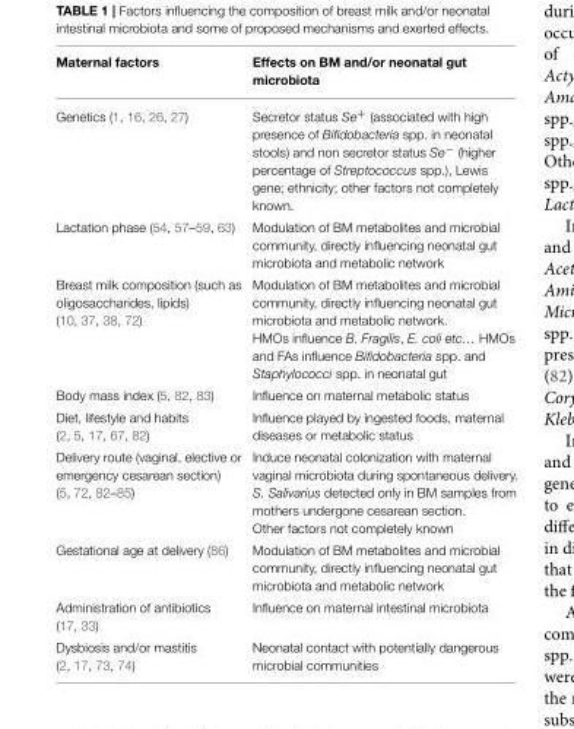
<table><thead><tr><td>Maternal factors</td><td>Effects on BM and/or neonatal gut microbiota</td></tr></thead><tbody><tr><td>Genetics (1, 16, 26, 27)</td><td>Secretor status Se<sup>+</sup> (associated with high presence of Bifidobacteria spp. in neonatal stools) and non secretor status Se<sup>−</sup> (higher percentage of Streptococcus spp.), Lewis gene; ethnicity; other factors not completely known.</td></tr><tr><td>Lactation phase (54, 57–59, 63)</td><td>Modulation of BM metabolites and microbial community, directly influencing neonatal gut microbiota and metabolic network</td></tr><tr><td>Breast milk composition (such as oligosaccharides, lipids) (10, 37, 38, 72)</td><td>Modulation of BM metabolites and microbial community, directly influencing neonatal gut microbiota and metabolic network. HMOs influence B. Fragilis, E. coli etc… HMOs and FAs influence Bifidobacteria spp. and Staphylococci spp. in neonatal gut</td></tr><tr><td>Body mass index (5, 82, 83)</td><td>Influence on maternal metabolic status</td></tr><tr><td>Diet, lifestyle and habits (2, 5, 17, 67, 82)</td><td>Influence played by ingested foods, maternal diseases or metabolic status</td></tr><tr><td>Delivery route (vaginal, elective or emergency cesarean section) (5, 72, 82–85)</td><td>Induce neonatal colonization with maternal vaginal microbiota during spontaneous delivery. S. Salivarius detected only in BM samples from mothers undergone cesarean section. Other factors not completely known</td></tr><tr><td>Gestational age at delivery (86)</td><td>Modulation of BM metabolites and microbial community, directly influencing neonatal gut microbiota and metabolic network</td></tr><tr><td>Administration of antibiotics (17, 33)</td><td>Influence on maternal intestinal microbiota</td></tr><tr><td>Dysbiosis and/or mastitis (2, 17, 73, 74)</td><td>Neonatal contact with potentially dangerous microbial communities</td></tr></tbody></table>